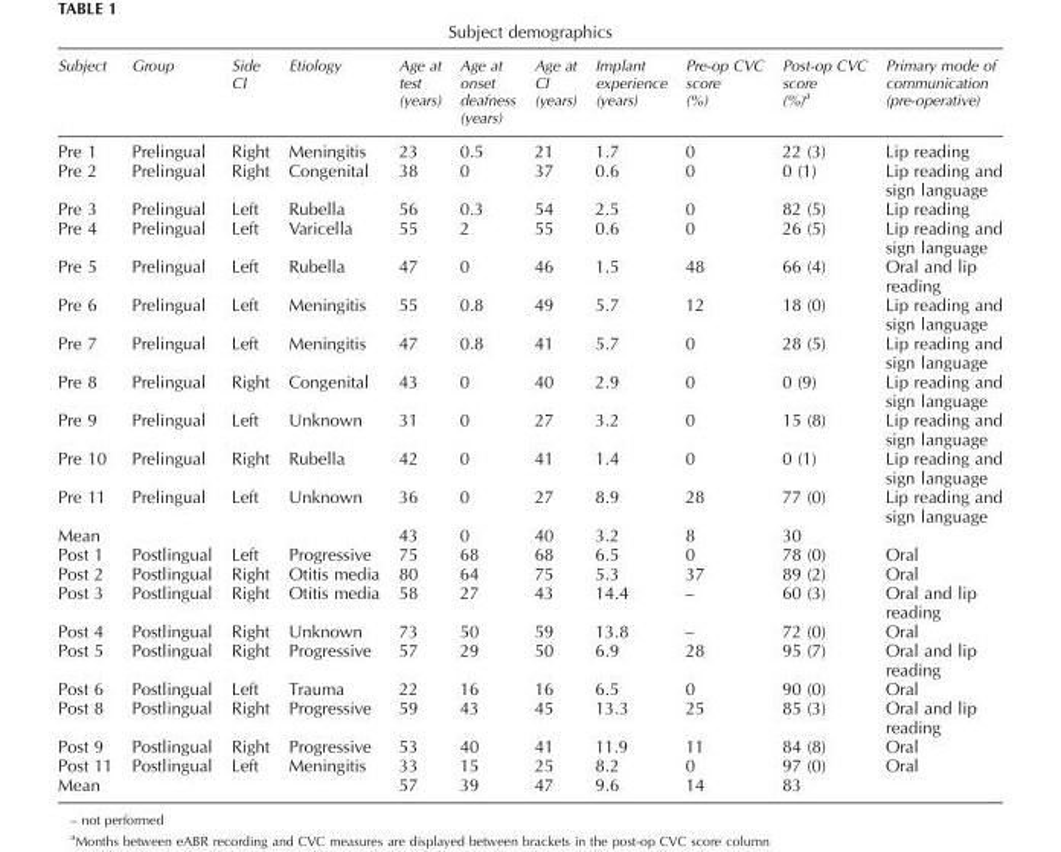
<table><thead><tr><td>Subject</td><td>Group</td><td>Side CI</td><td>Etiology</td><td>Age at test (years)</td><td>Age at onset deafness (years)</td><td>Age at CI (years)</td><td>Implant experience (years)</td><td>Pre-op CVC score (%)</td><td>Post-op CVC score (%)<sup>a</sup></td><td>Primary mode of communication (pre-operative)</td></tr></thead><tbody><tr><td>Pre 1</td><td>Prelingual</td><td>Right</td><td>Meningitis</td><td>23</td><td>0.5</td><td>21</td><td>1.7</td><td>0</td><td>22 (3)</td><td>Lip reading</td></tr><tr><td>Pre 2</td><td>Prelingual</td><td>Right</td><td>Congenital</td><td>38</td><td>0</td><td>37</td><td>0.6</td><td>0</td><td>0 (1)</td><td>Lip reading and sign language</td></tr><tr><td>Pre 3</td><td>Prelingual</td><td>Left</td><td>Rubella</td><td>56</td><td>0.3</td><td>54</td><td>2.5</td><td>0</td><td>82 (5)</td><td>Lip reading</td></tr><tr><td>Pre 4</td><td>Prelingual</td><td>Left</td><td>Varicella</td><td>55</td><td>2</td><td>55</td><td>0.6</td><td>0</td><td>26 (5)</td><td>Lip reading and sign language</td></tr><tr><td>Pre 5</td><td>Prelingual</td><td>Left</td><td>Rubella</td><td>47</td><td>0</td><td>46</td><td>1.5</td><td>48</td><td>66 (4)</td><td>Oral and lip reading</td></tr><tr><td>Pre 6</td><td>Prelingual</td><td>Left</td><td>Meningitis</td><td>55</td><td>0.8</td><td>49</td><td>5.7</td><td>12</td><td>18 (0)</td><td>Lip reading and sign language</td></tr><tr><td>Pre 7</td><td>Prelingual</td><td>Left</td><td>Meningitis</td><td>47</td><td>0.8</td><td>41</td><td>5.7</td><td>0</td><td>28 (5)</td><td>Lip reading and sign language</td></tr><tr><td>Pre 8</td><td>Prelingual</td><td>Right</td><td>Congenital</td><td>43</td><td>0</td><td>40</td><td>2.9</td><td>0</td><td>0 (9)</td><td>Lip reading and sign language</td></tr><tr><td>Pre 9</td><td>Prelingual</td><td>Left</td><td>Unknown</td><td>31</td><td>0</td><td>27</td><td>3.2</td><td>0</td><td>15 (8)</td><td>Lip reading and sign language</td></tr><tr><td>Pre 10</td><td>Prelingual</td><td>Right</td><td>Rubella</td><td>42</td><td>0</td><td>41</td><td>1.4</td><td>0</td><td>0 (1)</td><td>Lip reading and sign language</td></tr><tr><td>Pre 11</td><td>Prelingual</td><td>Left</td><td>Unknown</td><td>36</td><td>0</td><td>27</td><td>8.9</td><td>28</td><td>77 (0)</td><td>Lip reading and sign language</td></tr><tr><td>Mean</td><td></td><td></td><td></td><td>43</td><td>0</td><td>40</td><td>3.2</td><td>8</td><td>30</td><td></td></tr><tr><td>Post 1</td><td>Postlingual</td><td>Left</td><td>Progressive</td><td>75</td><td>68</td><td>68</td><td>6.5</td><td>0</td><td>78 (0)</td><td>Oral</td></tr><tr><td>Post 2</td><td>Postlingual</td><td>Right</td><td>Otitis media</td><td>80</td><td>64</td><td>75</td><td>5.3</td><td>37</td><td>89 (2)</td><td>Oral</td></tr><tr><td>Post 3</td><td>Postlingual</td><td>Right</td><td>Otitis media</td><td>58</td><td>27</td><td>43</td><td>14.4</td><td>–</td><td>60 (3)</td><td>Oral and lip reading</td></tr><tr><td>Post 4</td><td>Postlingual</td><td>Right</td><td>Unknown</td><td>73</td><td>50</td><td>59</td><td>13.8</td><td>–</td><td>72 (0)</td><td>Oral</td></tr><tr><td>Post 5</td><td>Postlingual</td><td>Right</td><td>Progressive</td><td>57</td><td>29</td><td>50</td><td>6.9</td><td>28</td><td>95 (7)</td><td>Oral and lip reading</td></tr><tr><td>Post 6</td><td>Postlingual</td><td>Left</td><td>Trauma</td><td>22</td><td>16</td><td>16</td><td>6.5</td><td>0</td><td>90 (0)</td><td>Oral</td></tr><tr><td>Post 8</td><td>Postlingual</td><td>Right</td><td>Progressive</td><td>59</td><td>43</td><td>45</td><td>13.3</td><td>25</td><td>85 (3)</td><td>Oral and lip reading</td></tr><tr><td>Post 9</td><td>Postlingual</td><td>Right</td><td>Progressive</td><td>53</td><td>40</td><td>41</td><td>11.9</td><td>11</td><td>84 (8)</td><td>Oral</td></tr><tr><td>Post 11</td><td>Postlingual</td><td>Left</td><td>Meningitis</td><td>33</td><td>15</td><td>25</td><td>8.2</td><td>0</td><td>97 (0)</td><td>Oral</td></tr><tr><td>Mean</td><td></td><td></td><td></td><td>57</td><td>39</td><td>47</td><td>9.6</td><td>14</td><td>83</td><td></td></tr></tbody></table>